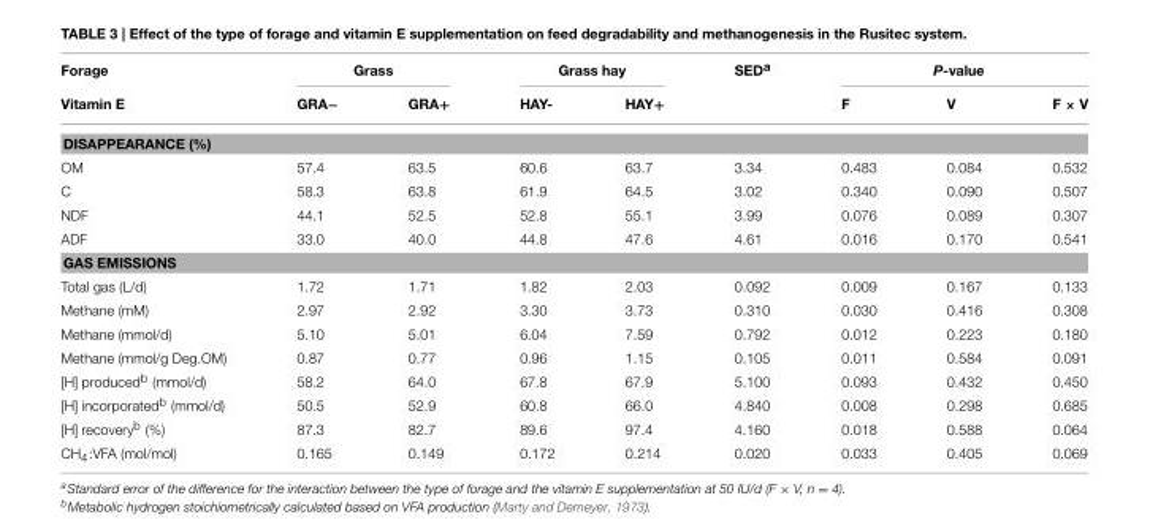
<table><thead><tr><td rowspan="2">Forage Vitamin E</td><td colspan="2">Grass</td><td colspan="2">Grass hay</td><td rowspan="2">SED<sup>a</sup></td><td colspan="3">P-value</td></tr><tr><td>GRA−</td><td>GRA+</td><td>HAY-</td><td>HAY+</td><td>F</td><td>V</td><td>F × V</td></tr></thead><tbody><tr><td colspan="9">DISAPPEARANCE (%)</td></tr><tr><td>OM</td><td>57.4</td><td>63.5</td><td>60.6</td><td>63.7</td><td>3.34</td><td>0.483</td><td>0.084</td><td>0.532</td></tr><tr><td>C</td><td>58.3</td><td>63.8</td><td>61.9</td><td>64.5</td><td>3.02</td><td>0.340</td><td>0.090</td><td>0.507</td></tr><tr><td>NDF</td><td>44.1</td><td>52.5</td><td>52.8</td><td>55.1</td><td>3.99</td><td>0.076</td><td>0.089</td><td>0.307</td></tr><tr><td>ADF</td><td>33.0</td><td>40.0</td><td>44.8</td><td>47.6</td><td>4.61</td><td>0.016</td><td>0.170</td><td>0.541</td></tr><tr><td colspan="9">GAS EMISSIONS</td></tr><tr><td>Total gas (L/d)</td><td>1.72</td><td>1.71</td><td>1.82</td><td>2.03</td><td>0.092</td><td>0.009</td><td>0.167</td><td>0.133</td></tr><tr><td>Methane (mM)</td><td>2.97</td><td>2.92</td><td>3.30</td><td>3.73</td><td>0.310</td><td>0.030</td><td>0.416</td><td>0.308</td></tr><tr><td>Methane (mmol/d)</td><td>5.10</td><td>5.01</td><td>6.04</td><td>7.59</td><td>0.792</td><td>0.012</td><td>0.223</td><td>0.180</td></tr><tr><td>Methane (mmol/g Deg.OM)</td><td>0.87</td><td>0.77</td><td>0.96</td><td>1.15</td><td>0.105</td><td>0.011</td><td>0.584</td><td>0.091</td></tr><tr><td>[H] produced<sup>b</sup> (mmol/d)</td><td>58.2</td><td>64.0</td><td>67.8</td><td>67.9</td><td>5.100</td><td>0.093</td><td>0.432</td><td>0.450</td></tr><tr><td>[H] incorporated<sup>b</sup> (mmol/d)</td><td>50.5</td><td>52.9</td><td>60.8</td><td>66.0</td><td>4.840</td><td>0.008</td><td>0.298</td><td>0.685</td></tr><tr><td>[H] recovery<sup>b</sup> (%)</td><td>87.3</td><td>82.7</td><td>89.6</td><td>97.4</td><td>4.160</td><td>0.018</td><td>0.588</td><td>0.064</td></tr><tr><td>CH<sub>4</sub>:VFA (mol/mol)</td><td>0.165</td><td>0.149</td><td>0.172</td><td>0.214</td><td>0.020</td><td>0.033</td><td>0.405</td><td>0.069</td></tr></tbody></table>